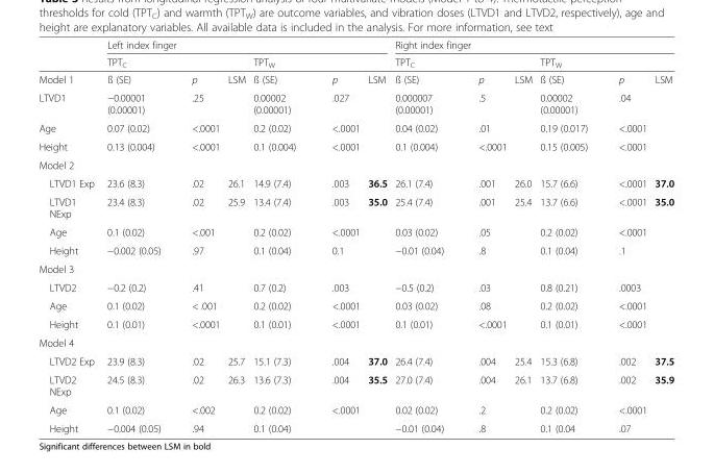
<table><thead><tr><td rowspan="3">Model 1</td><td colspan="6">Left index finger</td><td colspan="6">Right index finger</td></tr><tr><td colspan="3">TPT<sub>C</sub></td><td colspan="3">TPT<sub>W</sub></td><td colspan="3">TPT<sub>C</sub></td><td colspan="3">TPT<sub>W</sub></td></tr><tr><td>ß (SE)</td><td>p</td><td>LSM</td><td>ß (SE)</td><td>p</td><td>LSM</td><td>ß (SE)</td><td>p</td><td>LSM</td><td>ß (SE)</td><td>p</td><td>LSM</td></tr></thead><tbody><tr><td>LTVD1</td><td>−0.00001 (0.00001)</td><td>.25</td><td></td><td>0.00002 (0.00001)</td><td>.027</td><td></td><td>0.000007 (0.00001)</td><td>.5</td><td></td><td>0.00002 (0.00001)</td><td>.04</td><td></td></tr><tr><td>Age</td><td>0.07 (0.02)</td><td>&lt;.0001</td><td></td><td>0.2 (0.02)</td><td>&lt;.0001</td><td></td><td>0.04 (0.02)</td><td>.01</td><td></td><td>0.19 (0.017)</td><td>&lt;.0001</td><td></td></tr><tr><td>Height</td><td>0.13 (0.004)</td><td>&lt;.0001</td><td></td><td>0.1 (0.004)</td><td>&lt;.0001</td><td></td><td>0.1 (0.004)</td><td>&lt;.0001</td><td></td><td>0.15 (0.005)</td><td>&lt;.0001</td><td></td></tr><tr><td colspan="13">Model 2</td></tr><tr><td>LTVD1 Exp</td><td>23.6 (8.3)</td><td>.02</td><td>26.1</td><td>14.9 (7.4)</td><td>.003</td><td>36.5</td><td>26.1 (7.4)</td><td>.001</td><td>26.0</td><td>15.7 (6.6)</td><td>&lt;.0001</td><td>37.0</td></tr><tr><td>LTVD1 NExp</td><td>23.4 (8.3)</td><td>.02</td><td>25.9</td><td>13.4 (7.4)</td><td>.003</td><td>35.0</td><td>25.4 (7.4)</td><td>.001</td><td>25.4</td><td>13.7 (6.6)</td><td>&lt;.0001</td><td>35.0</td></tr><tr><td>Age</td><td>0.1 (0.02)</td><td>&lt;.001</td><td></td><td>0.2 (0.02)</td><td>&lt;.0001</td><td></td><td>0.03 (0.02)</td><td>.05</td><td></td><td>0.2 (0.02)</td><td>&lt;.0001</td><td></td></tr><tr><td>Height</td><td>−0.002 (0.05)</td><td>.97</td><td></td><td>0.1 (0.04)</td><td>0.1</td><td></td><td>−0.01 (0.04)</td><td>.8</td><td></td><td>0.1 (0.04)</td><td>.1</td><td></td></tr><tr><td colspan="13">Model 3</td></tr><tr><td>LTVD2</td><td>−0.2 (0.2)</td><td>.41</td><td></td><td>0.7 (0.2)</td><td>.003</td><td></td><td>−0.5 (0.2)</td><td>.03</td><td></td><td>0.8 (0.21)</td><td>.0003</td><td></td></tr><tr><td>Age</td><td>0.1 (0.02)</td><td>&lt; .001</td><td></td><td>0.2 (0.02)</td><td>&lt;.0001</td><td></td><td>0.03 (0.02)</td><td>.08</td><td></td><td>0.2 (0.02)</td><td>&lt;.0001</td><td></td></tr><tr><td>Height</td><td>0.1 (0.01)</td><td>&lt;.0001</td><td></td><td>0.1 (0.01)</td><td>&lt;.0001</td><td></td><td>0.1 (0.01)</td><td>&lt;.0001</td><td></td><td>0.1 (0.01)</td><td>&lt;.0001</td><td></td></tr><tr><td colspan="13">Model 4</td></tr><tr><td>LTVD2 Exp</td><td>23.9 (8.3)</td><td>.02</td><td>25.7</td><td>15.1 (7.3)</td><td>.004</td><td>37.0</td><td>26.4 (7.4)</td><td>.004</td><td>25.4</td><td>15.3 (6.8)</td><td>.002</td><td>37.5</td></tr><tr><td>LTVD2 NExp</td><td>24.5 (8.3)</td><td>.02</td><td>26.3</td><td>13.6 (7.3)</td><td>.004</td><td>35.5</td><td>27.0 (7.4)</td><td>.004</td><td>26.1</td><td>13.7 (6.8)</td><td>.002</td><td>35.9</td></tr><tr><td>Age</td><td>0.1 (0.02)</td><td>&lt;.002</td><td></td><td>0.2 (0.02)</td><td>&lt;.0001</td><td></td><td>0.02 (0.02)</td><td>.2</td><td></td><td>0.2 (0.02)</td><td>&lt;.0001</td><td></td></tr><tr><td>Height</td><td>−0.004 (0.05)</td><td>.94</td><td></td><td>0.1 (0.04)</td><td></td><td></td><td>−0.01 (0.04)</td><td>.8</td><td></td><td>0.1 (0.04</td><td>.07</td><td></td></tr></tbody></table>